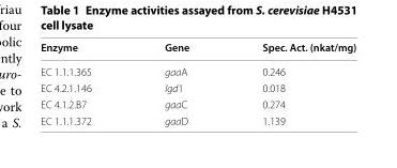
<table><thead><tr><td>Enzyme</td><td>Gene</td><td>Spec. Act. (nkat/mg)</td></tr></thead><tbody><tr><td>EC 1.1.1.365</td><td>gaaA</td><td>0.246</td></tr><tr><td>EC 4.2.1.146</td><td>lgd1</td><td>0.018</td></tr><tr><td>EC 4.1.2.B7</td><td>gaaC</td><td>0.274</td></tr><tr><td>EC 1.1.1.372</td><td>gaaD</td><td>1.139</td></tr></tbody></table>